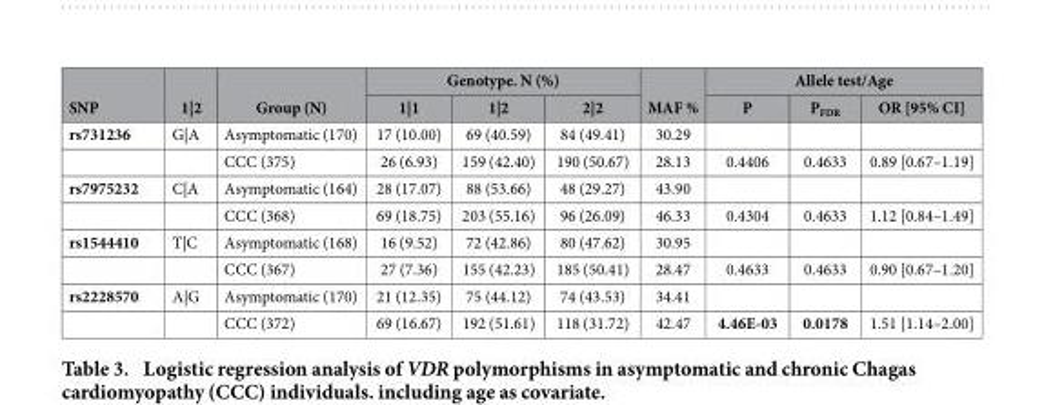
<table><thead><tr><td rowspan="2">SNP</td><td rowspan="2">1|2</td><td rowspan="2">Group (N)</td><td colspan="3">Genotype. N (%)</td><td rowspan="2">MAF %</td><td colspan="3">Allele test/Age</td></tr><tr><td>1|1</td><td>1|2</td><td>2|2</td><td>P</td><td>P<sub>FDR</sub></td><td>OR [95% CI]</td></tr></thead><tbody><tr><td rowspan="2">rs731236</td><td>G|A</td><td>Asymptomatic (170)</td><td>17 (10.00)</td><td>69 (40.59)</td><td>84 (49.41)</td><td>30.29</td><td></td><td></td><td></td></tr><tr><td></td><td>CCC (375)</td><td>26 (6.93)</td><td>159 (42.40)</td><td>190 (50.67)</td><td>28.13</td><td>0.4406</td><td>0.4633</td><td>0.89 [0.67–1.19]</td></tr><tr><td rowspan="2">rs7975232</td><td>C|A</td><td>Asymptomatic (164)</td><td>28 (17.07)</td><td>88 (53.66)</td><td>48 (29.27)</td><td>43.90</td><td></td><td></td><td></td></tr><tr><td></td><td>CCC (368)</td><td>69 (18.75)</td><td>203 (55.16)</td><td>96 (26.09)</td><td>46.33</td><td>0.4304</td><td>0.4633</td><td>1.12 [0.84–1.49]</td></tr><tr><td rowspan="2">rs1544410</td><td>T|C</td><td>Asymptomatic (168)</td><td>16 (9.52)</td><td>72 (42.86)</td><td>80 (47.62)</td><td>30.95</td><td></td><td></td><td></td></tr><tr><td></td><td>CCC (367)</td><td>27 (7.36)</td><td>155 (42.23)</td><td>185 (50.41)</td><td>28.47</td><td>0.4633</td><td>0.4633</td><td>0.90 [0.67–1.20]</td></tr><tr><td rowspan="2">rs2228570</td><td>A|G</td><td>Asymptomatic (170)</td><td>21 (12.35)</td><td>75 (44.12)</td><td>74 (43.53)</td><td>34.41</td><td></td><td></td><td></td></tr><tr><td></td><td>CCC (372)</td><td>69 (16.67)</td><td>192 (51.61)</td><td>118 (31.72)</td><td>42.47</td><td>4.46E-03</td><td>0.0178</td><td>1.51 [1.14–2.00]</td></tr></tbody></table>